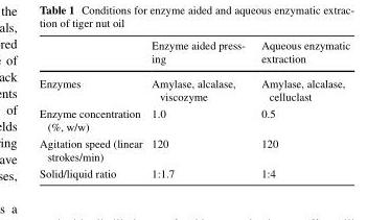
<table><thead><tr><td></td><td>Enzyme aided press- ing</td><td>Aqueous enzymatic extraction</td></tr></thead><tbody><tr><td>Enzymes</td><td>Amylase, alcalase, viscozyme</td><td>Amylase, alcalase, celluclast</td></tr><tr><td>Enzyme concentration (%, w/w)</td><td>1.0</td><td>0.5</td></tr><tr><td>Agitation speed (linear strokes/min)</td><td>120</td><td>120</td></tr><tr><td>Solid/liquid ratio</td><td>1:1.7</td><td>1:4</td></tr></tbody></table>